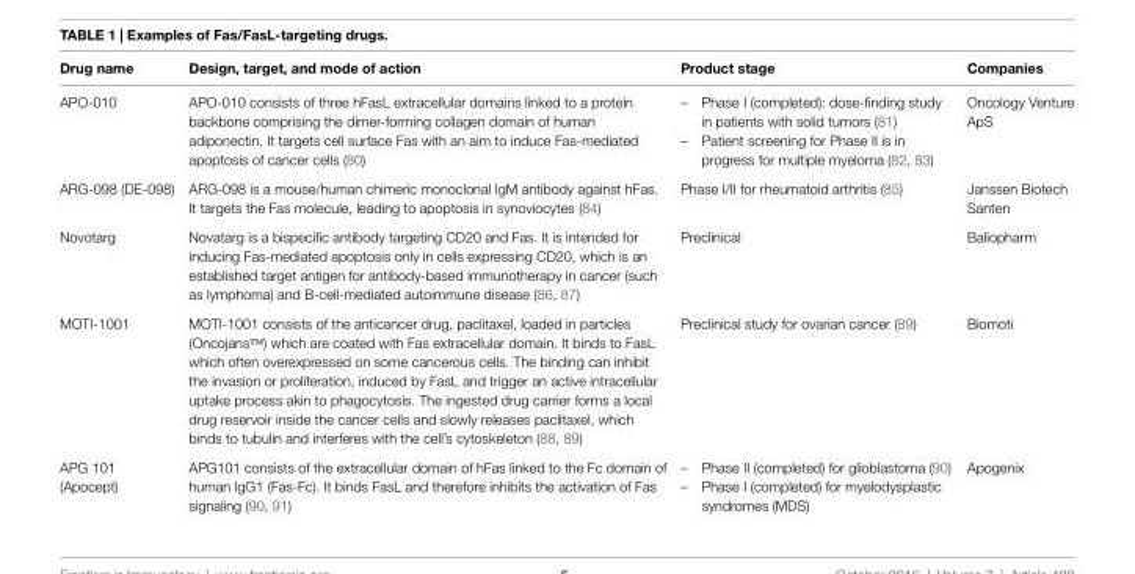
<table><thead><tr><td>Drug name</td><td>Design, target, and mode of action</td><td>Product stage</td><td>Companies</td></tr></thead><tbody><tr><td>APO-010</td><td>APO-010 consists of three hFasL extracellular domains linked to a protein backbone comprising the dimer-forming collagen domain of human adiponectin. It targets cell surface Fas with an aim to induce Fas-mediated apoptosis of cancer cells (80)</td><td>– Phase I (completed): dose-finding study in patients with solid tumors (81) – Patient screening for Phase II is in progress for multiple myeloma (82, 83)</td><td>Oncology Venture ApS</td></tr><tr><td rowspan="2">ARG-098 (DE-098)</td><td rowspan="2">ARG-098 is a mouse/human chimeric monoclonal IgM antibody against hFas. It targets the Fas molecule, leading to apoptosis in synoviocytes (84)</td><td rowspan="2">Phase I/II for rheumatoid arthritis (85)</td><td>Janssen Biotech</td></tr><tr><td>Santen</td></tr><tr><td>Novotarg</td><td>Novatarg is a bispecific antibody targeting CD20 and Fas. It is intended for inducing Fas-mediated apoptosis only in cells expressing CD20, which is an established target antigen for antibody-based immunotherapy in cancer (such as lymphoma) and B-cell-mediated autoimmune disease (86, 87)</td><td>Preclinical</td><td>Baliopharm</td></tr><tr><td>MOTI-1001</td><td>MOTI-1001 consists of the anticancer drug, paclitaxel, loaded in particles (Oncojans™) which are coated with Fas extracellular domain. It binds to FasL which often overexpressed on some cancerous cells. The binding can inhibit the invasion or proliferation, induced by FasL and trigger an active intracellular uptake process akin to phagocytosis. The ingested drug carrier forms a local drug reservoir inside the cancer cells and slowly releases paclitaxel, which binds to tubulin and interferes with the cell’s cytoskeleton (88, 89)</td><td>Preclinical study for ovarian cancer (89)</td><td>Biomoti</td></tr><tr><td>APG 101 (Apocept)</td><td>APG101 consists of the extracellular domain of hFas linked to the Fc domain of human IgG1 (Fas-Fc). It binds FasL and therefore inhibits the activation of Fas signaling (90, 91)</td><td>– Phase II (completed) for glioblastoma (90) – Phase I (completed) for myelodysplastic syndromes (MDS)</td><td>Apogenix</td></tr></tbody></table>